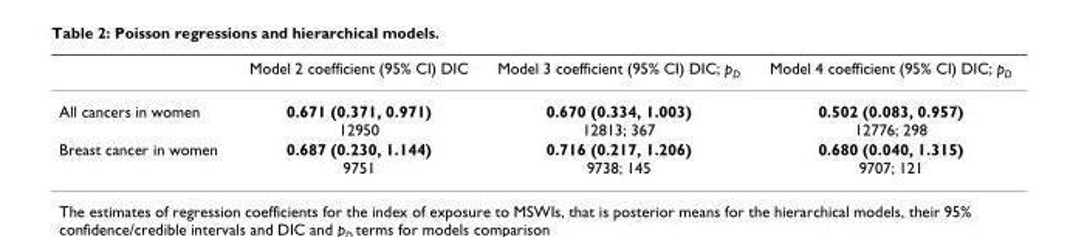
<table><thead><tr><td></td><td>Model 2 coefficient (95% CI) DIC</td><td>Model 3 coefficient (95% CI) DIC; p<sub>D</sub></td><td>Model 4 coefficient (95% CI) DIC; p<sub>D</sub></td></tr></thead><tbody><tr><td>All cancers in women</td><td>0.671 (0.371, 0.971) 12950</td><td>0.670 (0.334, 1.003) 12813; 367</td><td>0.502 (0.083, 0.957) 12776; 298</td></tr><tr><td>Breast cancer in women</td><td>0.687 (0.230, 1.144) 9751</td><td>0.716 (0.217, 1.206) 9738; 145</td><td>0.680 (0.040, 1.315) 9707; 121</td></tr></tbody></table>